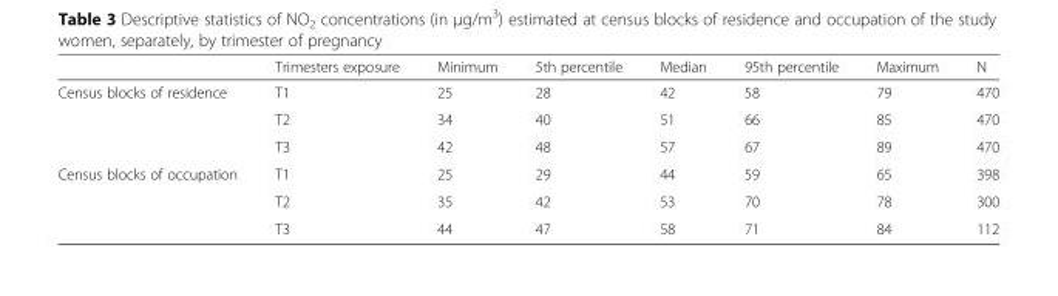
<table><thead><tr><td></td><td>Trimesters exposure</td><td>Minimum</td><td>5th percentile</td><td>Median</td><td>95th percentile</td><td>Maximum</td><td>N</td></tr></thead><tbody><tr><td rowspan="3">Census blocks of residence</td><td>T1</td><td>25</td><td>28</td><td>42</td><td>58</td><td>79</td><td>470</td></tr><tr><td>T2</td><td>34</td><td>40</td><td>51</td><td>66</td><td>85</td><td>470</td></tr><tr><td>T3</td><td>42</td><td>48</td><td>57</td><td>67</td><td>89</td><td>470</td></tr><tr><td rowspan="3">Census blocks of occupation</td><td>T1</td><td>25</td><td>29</td><td>44</td><td>59</td><td>65</td><td>398</td></tr><tr><td>T2</td><td>35</td><td>42</td><td>53</td><td>70</td><td>78</td><td>300</td></tr><tr><td>T3</td><td>44</td><td>47</td><td>58</td><td>71</td><td>84</td><td>112</td></tr></tbody></table>